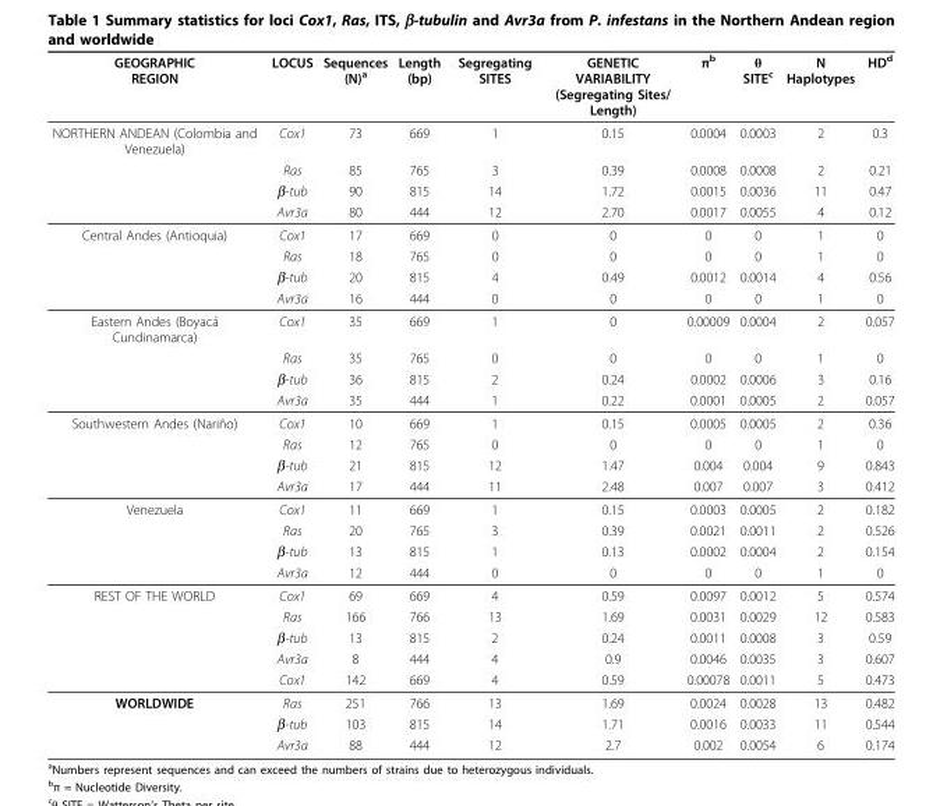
<table><thead><tr><td>GEOGRAPHIC REGION</td><td>LOCUS</td><td>Sequences (N)a</td><td>Length (bp)</td><td>Segregating SITES</td><td>GENETIC VARIABILITY (Segregating Sites/ Length)</td><td>πb</td><td>θ SITEc</td><td>N Haplotypes</td><td>HDd</td></tr></thead><tbody><tr><td rowspan="4">NORTHERN ANDEAN (Colombia and Venezuela)</td><td>Cox1</td><td>73</td><td>669</td><td>1</td><td>0.15</td><td>0.0004</td><td>0.0003</td><td>2</td><td>0.3</td></tr><tr><td>Ras</td><td>85</td><td>765</td><td>3</td><td>0.39</td><td>0.0008</td><td>0.0008</td><td>2</td><td>0.21</td></tr><tr><td>β-tub</td><td>90</td><td>815</td><td>14</td><td>1.72</td><td>0.0015</td><td>0.0036</td><td>11</td><td>0.47</td></tr><tr><td>Avr3a</td><td>80</td><td>444</td><td>12</td><td>2.70</td><td>0.0017</td><td>0.0055</td><td>4</td><td>0.12</td></tr><tr><td rowspan="4">Central Andes (Antioquia)</td><td>Cox1</td><td>17</td><td>669</td><td>0</td><td>0</td><td>0</td><td>0</td><td>1</td><td>0</td></tr><tr><td>Ras</td><td>18</td><td>765</td><td>0</td><td>0</td><td>0</td><td>0</td><td>1</td><td>0</td></tr><tr><td>β-tub</td><td>20</td><td>815</td><td>4</td><td>0.49</td><td>0.0012</td><td>0.0014</td><td>4</td><td>0.56</td></tr><tr><td>Avr3a</td><td>16</td><td>444</td><td>0</td><td>0</td><td>0</td><td>0</td><td>1</td><td>0</td></tr><tr><td rowspan="4">Eastern Andes (Boyacá Cundinamarca)</td><td>Cox1</td><td>35</td><td>669</td><td>1</td><td>0</td><td>0.00009</td><td>0.0004</td><td>2</td><td>0.057</td></tr><tr><td>Ras</td><td>35</td><td>765</td><td>0</td><td>0</td><td>0</td><td>0</td><td>1</td><td>0</td></tr><tr><td>β-tub</td><td>36</td><td>815</td><td>2</td><td>0.24</td><td>0.0002</td><td>0.0006</td><td>3</td><td>0.16</td></tr><tr><td>Avr3a</td><td>35</td><td>444</td><td>1</td><td>0.22</td><td>0.0001</td><td>0.0005</td><td>2</td><td>0.057</td></tr><tr><td rowspan="4">Southwestern Andes (Nariño)</td><td>Cox1</td><td>10</td><td>669</td><td>1</td><td>0.15</td><td>0.0005</td><td>0.0005</td><td>2</td><td>0.36</td></tr><tr><td>Ras</td><td>12</td><td>765</td><td>0</td><td>0</td><td>0</td><td>0</td><td>1</td><td>0</td></tr><tr><td>β-tub</td><td>21</td><td>815</td><td>12</td><td>1.47</td><td>0.004</td><td>0.004</td><td>9</td><td>0.843</td></tr><tr><td>Avr3a</td><td>17</td><td>444</td><td>11</td><td>2.48</td><td>0.007</td><td>0.007</td><td>3</td><td>0.412</td></tr><tr><td rowspan="4">Venezuela</td><td>Cox1</td><td>11</td><td>669</td><td>1</td><td>0.15</td><td>0.0003</td><td>0.0005</td><td>2</td><td>0.182</td></tr><tr><td>Ras</td><td>20</td><td>765</td><td>3</td><td>0.39</td><td>0.0021</td><td>0.0011</td><td>2</td><td>0.526</td></tr><tr><td>β-tub</td><td>13</td><td>815</td><td>1</td><td>0.13</td><td>0.0002</td><td>0.0004</td><td>2</td><td>0.154</td></tr><tr><td>Avr3a</td><td>12</td><td>444</td><td>0</td><td>0</td><td>0</td><td>0</td><td>1</td><td>0</td></tr><tr><td rowspan="5">REST OF THE WORLD</td><td>Cox1</td><td>69</td><td>669</td><td>4</td><td>0.59</td><td>0.0097</td><td>0.0012</td><td>5</td><td>0.574</td></tr><tr><td>Ras</td><td>166</td><td>766</td><td>13</td><td>1.69</td><td>0.0031</td><td>0.0029</td><td>12</td><td>0.583</td></tr><tr><td>β-tub</td><td>13</td><td>815</td><td>2</td><td>0.24</td><td>0.0011</td><td>0.0008</td><td>3</td><td>0.59</td></tr><tr><td>Avr3a</td><td>8</td><td>444</td><td>4</td><td>0.9</td><td>0.0046</td><td>0.0035</td><td>3</td><td>0.607</td></tr><tr><td>Cox1</td><td>142</td><td>669</td><td>4</td><td>0.59</td><td>0.00078</td><td>0.0011</td><td>5</td><td>0.473</td></tr><tr><td rowspan="3">WORLDWIDE</td><td>Ras</td><td>251</td><td>766</td><td>13</td><td>1.69</td><td>0.0024</td><td>0.0028</td><td>13</td><td>0.482</td></tr><tr><td>β-tub</td><td>103</td><td>815</td><td>14</td><td>1.71</td><td>0.0016</td><td>0.0033</td><td>11</td><td>0.544</td></tr><tr><td>Avr3a</td><td>88</td><td>444</td><td>12</td><td>2.7</td><td>0.002</td><td>0.0054</td><td>6</td><td>0.174</td></tr></tbody></table>